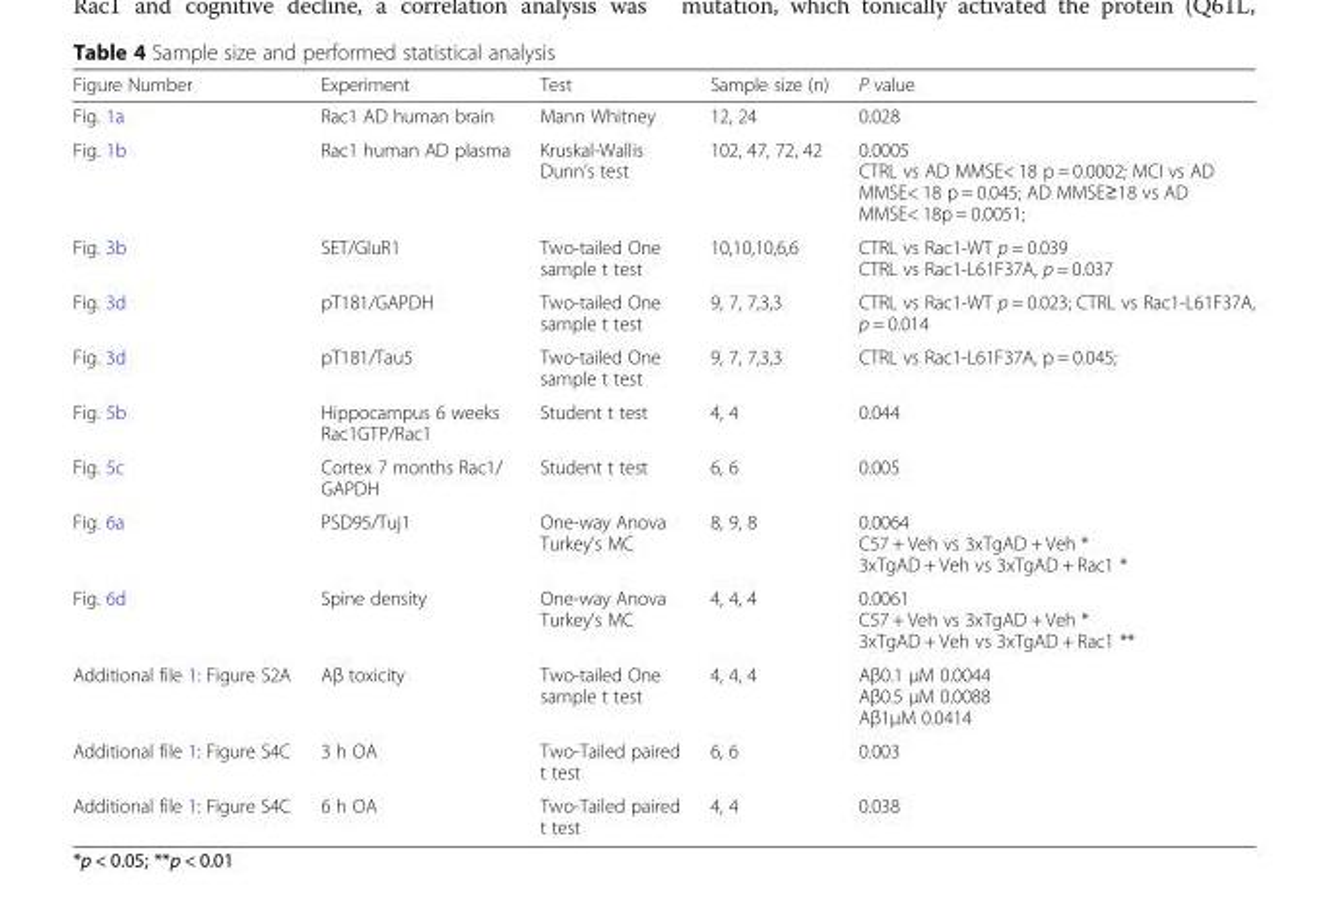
<table><thead><tr><td>Figure Number</td><td>Experiment</td><td>Test</td><td>Sample size (n)</td><td>P value</td></tr></thead><tbody><tr><td>Fig. 1a</td><td>Rac1 AD human brain</td><td>Mann Whitney</td><td>12, 24</td><td>0.028</td></tr><tr><td>Fig. 1b</td><td>Rac1 human AD plasma</td><td>Kruskal-Wallis Dunn’s test</td><td>102, 47, 72, 42</td><td>0.0005 CTRL vs AD MMSE&lt; 18 p = 0.0002; MCI vs AD MMSE&lt; 18 p = 0.045; AD MMSE≥18 vs AD MMSE&lt; 18p = 0.0051;</td></tr><tr><td>Fig. 3b</td><td>SET/GluR1</td><td>Two-tailed One sample t test</td><td>10,10,10,6,6</td><td>CTRL vs Rac1-WT p = 0.039 CTRL vs Rac1-L61F37A, p = 0.037</td></tr><tr><td>Fig. 3d</td><td>pT181/GAPDH</td><td>Two-tailed One sample t test</td><td>9, 7, 7,3,3</td><td>CTRL vs Rac1-WT p = 0.023; CTRL vs Rac1-L61F37A, p = 0.014</td></tr><tr><td>Fig. 3d</td><td>pT181/Tau5</td><td>Two-tailed One sample t test</td><td>9, 7, 7,3,3</td><td>CTRL vs Rac1-L61F37A, p = 0.045;</td></tr><tr><td>Fig. 5b</td><td>Hippocampus 6 weeks Rac1GTP/Rac1</td><td>Student t test</td><td>4, 4</td><td>0.044</td></tr><tr><td>Fig. 5c</td><td>Cortex 7 months Rac1/ GAPDH</td><td>Student t test</td><td>6, 6</td><td>0.005</td></tr><tr><td>Fig. 6a</td><td>PSD95/Tuj1</td><td>One-way Anova Turkey’s MC</td><td>8, 9, 8</td><td>0.0064 C57 + Veh vs 3xTgAD + Veh * 3xTgAD + Veh vs 3xTgAD + Rac1 *</td></tr><tr><td>Fig. 6d</td><td>Spine density</td><td>One-way Anova Turkey’s MC</td><td>4, 4, 4</td><td>0.0061 C57 + Veh vs 3xTgAD + Veh * 3xTgAD + Veh vs 3xTgAD + Rac1 **</td></tr><tr><td>Additional file 1: Figure S2A</td><td>Aβ toxicity</td><td>Two-tailed One sample t test</td><td>4, 4, 4</td><td>Aβ0.1 μM 0.0044 Aβ0.5 μM 0.0088 Aβ1μM 0.0414</td></tr><tr><td>Additional file 1: Figure S4C</td><td>3 h OA</td><td>Two-Tailed paired t test</td><td>6, 6</td><td>0.003</td></tr><tr><td>Additional file 1: Figure S4C</td><td>6 h OA</td><td>Two-Tailed paired t test</td><td>4, 4</td><td>0.038</td></tr></tbody></table>